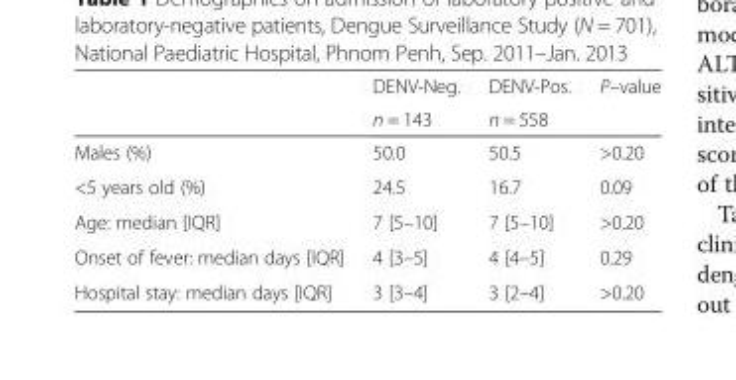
<table><thead><tr><td rowspan="2"></td><td rowspan="2">DENV-Neg. n = 143</td><td rowspan="2">DENV-Pos. n = 558</td><td rowspan="2">P–value</td></tr><tr></tr></thead><tbody><tr><td>Males (%)</td><td>50.0</td><td>50.5</td><td>&gt;0.20</td></tr><tr><td>&lt;5 years old (%)</td><td>24.5</td><td>16.7</td><td>0.09</td></tr><tr><td>Age: median [IQR]</td><td>7 [5–10]</td><td>7 [5–10]</td><td>&gt;0.20</td></tr><tr><td>Onset of fever: median days [IQR]</td><td>4 [3–5]</td><td>4 [4–5]</td><td>0.29</td></tr><tr><td>Hospital stay: median days [IQR]</td><td>3 [3–4]</td><td>3 [2–4]</td><td>&gt;0.20</td></tr></tbody></table>